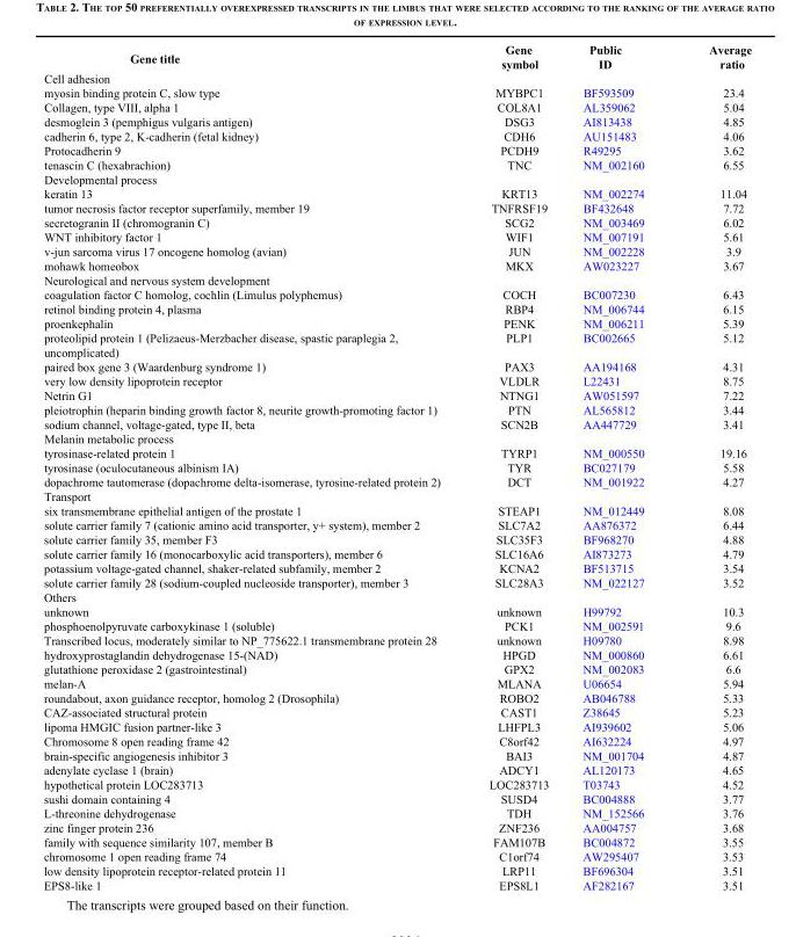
<table><thead><tr><td>Gene title</td><td>Gene symbol</td><td>Public ID</td><td>Average ratio</td></tr></thead><tbody><tr><td colspan="4">Cell adhesion</td></tr><tr><td>myosin binding protein C, slow type</td><td>MYBPC1</td><td>BF593509</td><td>23.4</td></tr><tr><td>Collagen, type VIII, alpha 1</td><td>COL8A1</td><td>AL359062</td><td>5.04</td></tr><tr><td>desmoglein 3 (pemphigus vulgaris antigen)</td><td>DSG3</td><td>AI813438</td><td>4.85</td></tr><tr><td>cadherin 6, type 2, K-cadherin (fetal kidney)</td><td>CDH6</td><td>AU151483</td><td>4.06</td></tr><tr><td>Protocadherin 9</td><td>PCDH9</td><td>R49295</td><td>3.62</td></tr><tr><td>tenascin C (hexabrachion)</td><td>TNC</td><td>NM_002160</td><td>6.55</td></tr><tr><td colspan="4">Developmental process</td></tr><tr><td>keratin 13</td><td>KRT13</td><td>NM_002274</td><td>11.04</td></tr><tr><td>tumor necrosis factor receptor superfamily, member 19</td><td>TNFRSF19</td><td>BF432648</td><td>7.72</td></tr><tr><td>secretogranin II (chromogranin C)</td><td>SCG2</td><td>NM_003469</td><td>6.02</td></tr><tr><td>WNT inhibitory factor 1</td><td>WIF1</td><td>NM_007191</td><td>5.61</td></tr><tr><td>v-jun sarcoma virus 17 oncogene homolog (avian)</td><td>JUN</td><td>NM_002228</td><td>3.9</td></tr><tr><td>mohawk homeobox</td><td>MKX</td><td>AW023227</td><td>3.67</td></tr><tr><td colspan="4">Neurological and nervous system development</td></tr><tr><td>coagulation factor C homolog, cochlin (Limulus polyphemus)</td><td>COCH</td><td>BC007230</td><td>6.43</td></tr><tr><td>retinol binding protein 4, plasma</td><td>RBP4</td><td>NM_006744</td><td>6.15</td></tr><tr><td>proenkephalin</td><td>PENK</td><td>NM_006211</td><td>5.39</td></tr><tr><td>proteolipid protein 1 (Pelizaeus-Merzbacher disease, spastic paraplegia 2, uncomplicated)</td><td>PLP1</td><td>BC002665</td><td>5.12</td></tr><tr><td>paired box gene 3 (Waardenburg syndrome 1)</td><td>PAX3</td><td>AA194168</td><td>4.31</td></tr><tr><td>very low density lipoprotein receptor</td><td>VLDLR</td><td>L22431</td><td>8.75</td></tr><tr><td>Netrin G1</td><td>NTNG1</td><td>AW051597</td><td>7.22</td></tr><tr><td>pleiotrophin (heparin binding growth factor 8, neurite growth-promoting factor 1)</td><td>PTN</td><td>AL565812</td><td>3.44</td></tr><tr><td>sodium channel, voltage-gated, type II, beta</td><td>SCN2B</td><td>AA447729</td><td>3.41</td></tr><tr><td colspan="4">Melanin metabolic process</td></tr><tr><td>tyrosinase-related protein 1</td><td>TYRP1</td><td>NM_000550</td><td>19.16</td></tr><tr><td>tyrosinase (oculocutaneous albinism IA)</td><td>TYR</td><td>BC027179</td><td>5.58</td></tr><tr><td>dopachrome tautomerase (dopachrome delta-isomerase, tyrosine-related protein 2)</td><td>DCT</td><td>NM_001922</td><td>4.27</td></tr><tr><td colspan="4">Transport</td></tr><tr><td>six transmembrane epithelial antigen of the prostate 1</td><td>STEAP1</td><td>NM_012449</td><td>8.08</td></tr><tr><td>solute carrier family 7 (cationic amino acid transporter, y+ system), member 2</td><td>SLC7A2</td><td>AA876372</td><td>6.44</td></tr><tr><td>solute carrier family 35, member F3</td><td>SLC35F3</td><td>BF968270</td><td>4.88</td></tr><tr><td>solute carrier family 16 (monocarboxylic acid transporters), member 6</td><td>SLC16A6</td><td>AI873273</td><td>4.79</td></tr><tr><td>potassium voltage-gated channel, shaker-related subfamily, member 2</td><td>KCNA2</td><td>BF513715</td><td>3.54</td></tr><tr><td>solute carrier family 28 (sodium-coupled nucleoside transporter), member 3</td><td>SLC28A3</td><td>NM_022127</td><td>3.52</td></tr><tr><td colspan="4">Others</td></tr><tr><td>unknown</td><td>unknown</td><td>H99792</td><td>10.3</td></tr><tr><td>phosphoenolpyruvate carboxykinase 1 (soluble)</td><td>PCK1</td><td>NM_002591</td><td>9.6</td></tr><tr><td>Transcribed locus, moderately similar to NP_775622.1 transmembrane protein 28</td><td>unknown</td><td>H09780</td><td>8.98</td></tr><tr><td>hydroxyprostaglandin dehydrogenase 15-(NAD)</td><td>HPGD</td><td>NM_000860</td><td>6.61</td></tr><tr><td>glutathione peroxidase 2 (gastrointestinal)</td><td>GPX2</td><td>NM_002083</td><td>6.6</td></tr><tr><td>melan-A</td><td>MLANA</td><td>U06654</td><td>5.94</td></tr><tr><td>roundabout, axon guidance receptor, homolog 2 (Drosophila)</td><td>ROBO2</td><td>AB046788</td><td>5.33</td></tr><tr><td>CAZ-associated structural protein</td><td>CAST1</td><td>Z38645</td><td>5.23</td></tr><tr><td>lipoma HMGIC fusion partner-like 3</td><td>LHFPL3</td><td>AI939602</td><td>5.06</td></tr><tr><td>Chromosome 8 open reading frame 42</td><td>C8orf42</td><td>AI632224</td><td>4.97</td></tr><tr><td>brain-specific angiogenesis inhibitor 3</td><td>BAI3</td><td>NM_001704</td><td>4.87</td></tr><tr><td>adenylate cyclase 1 (brain)</td><td>ADCY1</td><td>AL120173</td><td>4.65</td></tr><tr><td>hypothetical protein LOC283713</td><td>LOC283713</td><td>T03743</td><td>4.52</td></tr><tr><td>sushi domain containing 4</td><td>SUSD4</td><td>BC004888</td><td>3.77</td></tr><tr><td>L-threonine dehydrogenase</td><td>TDH</td><td>NM_152566</td><td>3.76</td></tr><tr><td>zinc finger protein 236</td><td>ZNF236</td><td>AA004757</td><td>3.68</td></tr><tr><td>family with sequence similarity 107, member B</td><td>FAM107B</td><td>BC004872</td><td>3.55</td></tr><tr><td>chromosome 1 open reading frame 74</td><td>C1orf74</td><td>AW295407</td><td>3.53</td></tr><tr><td>low density lipoprotein receptor-related protein 11</td><td>LRP11</td><td>BF696304</td><td>3.51</td></tr><tr><td>EPS8-like 1</td><td>EPS8L1</td><td>AF282167</td><td>3.51</td></tr></tbody></table>